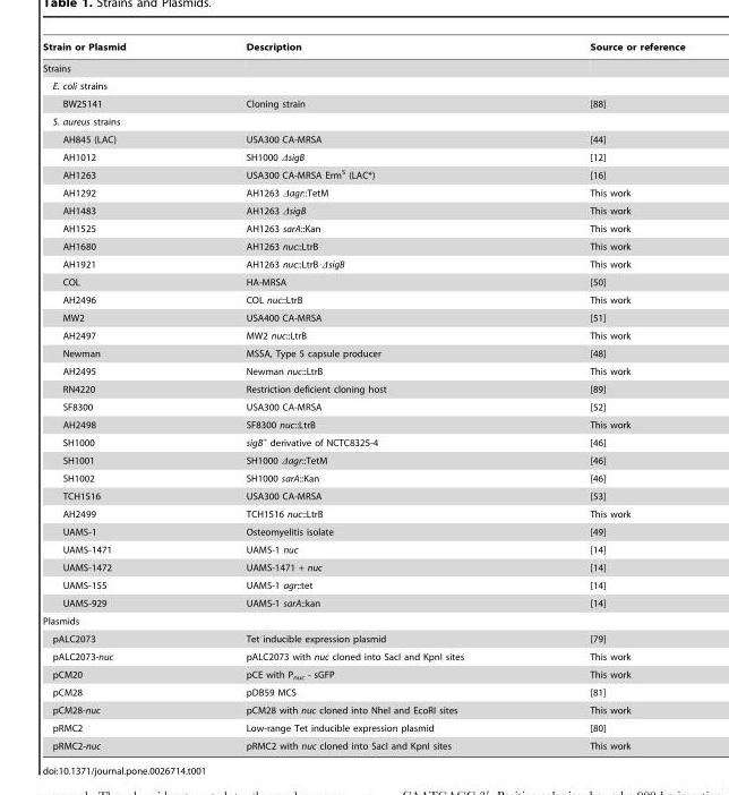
<table><thead><tr><td>Strain or Plasmid</td><td>Description</td><td>Source or reference</td></tr></thead><tbody><tr><td colspan="3">Strains</td></tr><tr><td colspan="3">E. coli strains</td></tr><tr><td>BW25141</td><td>Cloning strain</td><td>[88]</td></tr><tr><td colspan="3">S. aureus strains</td></tr><tr><td>AH845 (LAC)</td><td>USA300 CA-MRSA</td><td>[44]</td></tr><tr><td>AH1012</td><td>SH1000 ΔsigB</td><td>[12]</td></tr><tr><td>AH1263</td><td>USA300 CA-MRSA Erm<sup>S</sup> (LAC*)</td><td>[16]</td></tr><tr><td>AH1292</td><td>AH1263 Δagr::TetM</td><td>This work</td></tr><tr><td>AH1483</td><td>AH1263 ΔsigB</td><td>This work</td></tr><tr><td>AH1525</td><td>AH1263 sarA::Kan</td><td>This work</td></tr><tr><td>AH1680</td><td>AH1263 nuc::LtrB</td><td>This work</td></tr><tr><td>AH1921</td><td>AH1263 nuc::LtrB ΔsigB</td><td>This work</td></tr><tr><td>COL</td><td>HA-MRSA</td><td>[50]</td></tr><tr><td>AH2496</td><td>COL nuc::LtrB</td><td>This work</td></tr><tr><td>MW2</td><td>USA400 CA-MRSA</td><td>[51]</td></tr><tr><td>AH2497</td><td>MW2 nuc::LtrB</td><td>This work</td></tr><tr><td>Newman</td><td>MSSA, Type 5 capsule producer</td><td>[48]</td></tr><tr><td>AH2495</td><td>Newman nuc::LtrB</td><td>This work</td></tr><tr><td>RN4220</td><td>Restriction deficient cloning host</td><td>[89]</td></tr><tr><td>SF8300</td><td>USA300 CA-MRSA</td><td>[52]</td></tr><tr><td>AH2498</td><td>SF8300 nuc::LtrB</td><td>This work</td></tr><tr><td>SH1000</td><td>sigB<sup>+</sup> derivative of NCTC8325-4</td><td>[46]</td></tr><tr><td>SH1001</td><td>SH1000 Δagr::TetM</td><td>[46]</td></tr><tr><td>SH1002</td><td>SH1000 sarA::Kan</td><td>[46]</td></tr><tr><td>TCH1516</td><td>USA300 CA-MRSA</td><td>[53]</td></tr><tr><td>AH2499</td><td>TCH1516 nuc::LtrB</td><td>This work</td></tr><tr><td>UAMS-1</td><td>Osteomyelitis isolate</td><td>[49]</td></tr><tr><td>UAMS-1471</td><td>UAMS-1 nuc</td><td>[14]</td></tr><tr><td>UAMS-1472</td><td>UAMS-1471 + nuc</td><td>[14]</td></tr><tr><td>UAMS-155</td><td>UAMS-1 agr::tet</td><td>[14]</td></tr><tr><td>UAMS-929</td><td>UAMS-1 sarA::kan</td><td>[14]</td></tr><tr><td colspan="3">Plasmids</td></tr><tr><td>pALC2073</td><td>Tet inducible expression plasmid</td><td>[79]</td></tr><tr><td>pALC2073-nuc</td><td>pALC2073 with nuc cloned into SacI and KpnI sites</td><td>This work</td></tr><tr><td>pCM20</td><td>pCE with P<sub>nuc</sub> - sGFP</td><td>This work</td></tr><tr><td>pCM28</td><td>pDB59 MCS</td><td>[81]</td></tr><tr><td>pCM28-nuc</td><td>pCM28 with nuc cloned into NheI and EcoRI sites</td><td>This work</td></tr><tr><td>pRMC2</td><td>Low-range Tet inducible expression plasmid</td><td>[80]</td></tr><tr><td>pRMC2-nuc</td><td>pRMC2 with nuc cloned into SacI and KpnI sites</td><td>This work</td></tr></tbody></table>